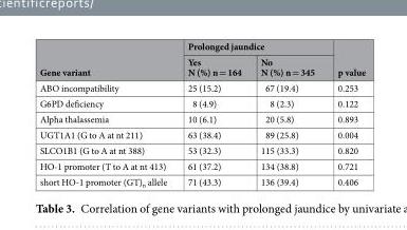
<table><thead><tr><td rowspan="2">Gene variant</td><td colspan="2">Prolonged jaundice</td><td rowspan="2">p value</td></tr><tr><td>Yes N (%) n = 164</td><td>No N (%) n = 345</td></tr></thead><tbody><tr><td>ABO incompatibility</td><td>25 (15.2)</td><td>67 (19.4)</td><td>0.253</td></tr><tr><td>G6PD deficiency</td><td>8 (4.9)</td><td>8 (2.3)</td><td>0.122</td></tr><tr><td>Alpha thalassemia</td><td>10 (6.1)</td><td>20 (5.8)</td><td>0.893</td></tr><tr><td>UGT1A1 (G to A at nt 211)</td><td>63 (38.4)</td><td>89 (25.8)</td><td>0.004</td></tr><tr><td>SLCO1B1 (G to A at nt 388)</td><td>53 (32.3)</td><td>115 (33.3)</td><td>0.820</td></tr><tr><td>HO-1 promoter (T to A at nt 413)</td><td>61 (37.2)</td><td>134 (38.8)</td><td>0.721</td></tr><tr><td>short HO-1 promoter (GT)<sub>n</sub> allele</td><td>71 (43.3)</td><td>136 (39.4)</td><td>0.406</td></tr></tbody></table>